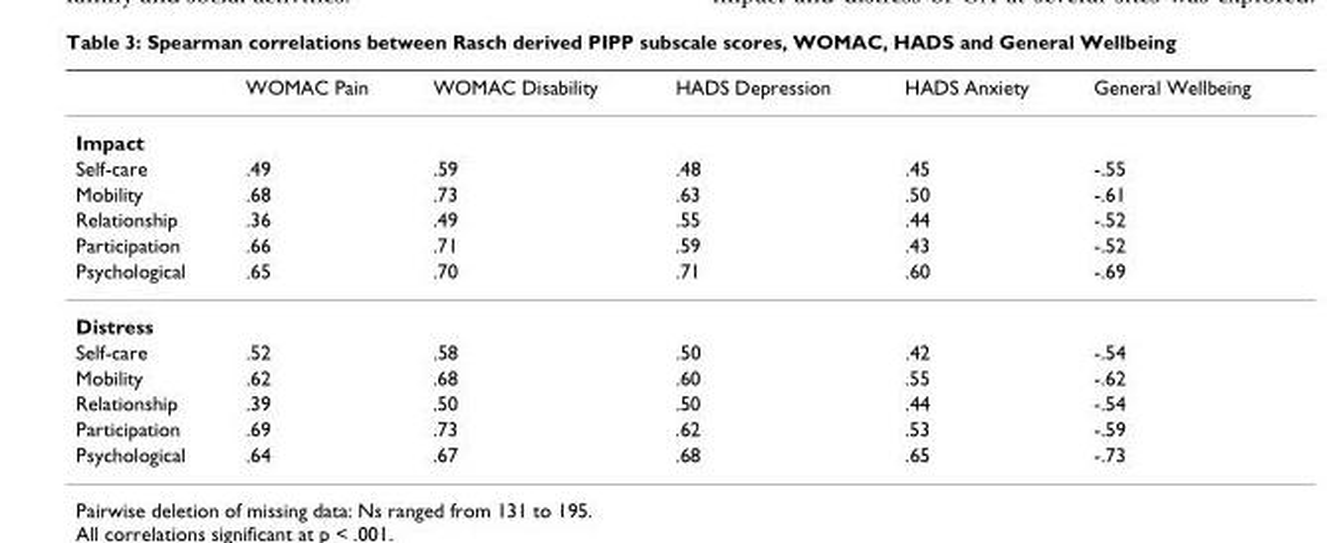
<table><thead><tr><td></td><td>WOMAC Pain</td><td>WOMAC Disability</td><td>HADS Depression</td><td>HADS Anxiety</td><td>General Wellbeing</td></tr></thead><tbody><tr><td colspan="6">Impact</td></tr><tr><td>Self-care</td><td>.49</td><td>.59</td><td>.48</td><td>.45</td><td>-.55</td></tr><tr><td>Mobility</td><td>.68</td><td>.73</td><td>.63</td><td>.50</td><td>-.61</td></tr><tr><td>Relationship</td><td>.36</td><td>.49</td><td>.55</td><td>.44</td><td>-.52</td></tr><tr><td>Participation</td><td>.66</td><td>.71</td><td>.59</td><td>.43</td><td>-.52</td></tr><tr><td>Psychological</td><td>.65</td><td>.70</td><td>.71</td><td>.60</td><td>-.69</td></tr><tr><td colspan="6">Distress</td></tr><tr><td>Self-care</td><td>.52</td><td>.58</td><td>.50</td><td>.42</td><td>-.54</td></tr><tr><td>Mobility</td><td>.62</td><td>.68</td><td>.60</td><td>.55</td><td>-.62</td></tr><tr><td>Relationship</td><td>.39</td><td>.50</td><td>.50</td><td>.44</td><td>-.54</td></tr><tr><td>Participation</td><td>.69</td><td>.73</td><td>.62</td><td>.53</td><td>-.59</td></tr><tr><td>Psychological</td><td>.64</td><td>.67</td><td>.68</td><td>.65</td><td>-.73</td></tr></tbody></table>